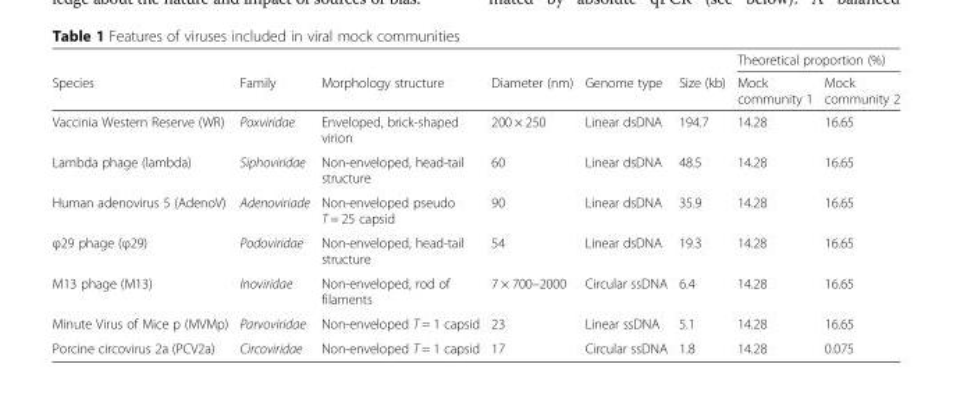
<table><thead><tr><td rowspan="2">Species</td><td rowspan="2">Family</td><td rowspan="2">Morphology structure</td><td rowspan="2">Diameter (nm)</td><td rowspan="2">Genome type</td><td rowspan="2">Size (kb)</td><td colspan="2">Theoretical proportion (%)</td></tr><tr><td>Mock community 1</td><td>Mock community 2</td></tr></thead><tbody><tr><td>Vaccinia Western Reserve (WR)</td><td>Poxviridae</td><td>Enveloped, brick-shaped virion</td><td>200 × 250</td><td>Linear dsDNA</td><td>194.7</td><td>14.28</td><td>16.65</td></tr><tr><td>Lambda phage (lambda)</td><td>Siphoviridae</td><td>Non-enveloped, head-tail structure</td><td>60</td><td>Linear dsDNA</td><td>48.5</td><td>14.28</td><td>16.65</td></tr><tr><td>Human adenovirus 5 (AdenoV)</td><td>Adenoviriade</td><td>Non-enveloped pseudo T = 25 capsid</td><td>90</td><td>Linear dsDNA</td><td>35.9</td><td>14.28</td><td>16.65</td></tr><tr><td>φ29 phage (φ29)</td><td>Podoviridae</td><td>Non-enveloped, head-tail structure</td><td>54</td><td>Linear dsDNA</td><td>19.3</td><td>14.28</td><td>16.65</td></tr><tr><td>M13 phage (M13)</td><td>Inoviridae</td><td>Non-enveloped, rod of filaments</td><td>7 × 700–2000</td><td>Circular ssDNA</td><td>6.4</td><td>14.28</td><td>16.65</td></tr><tr><td>Minute Virus of Mice p (MVMp)</td><td>Parvoviridae</td><td>Non-enveloped T = 1 capsid</td><td>23</td><td>Linear ssDNA</td><td>5.1</td><td>14.28</td><td>16.65</td></tr><tr><td>Porcine circovirus 2a (PCV2a)</td><td>Circoviridae</td><td>Non-enveloped T = 1 capsid</td><td>17</td><td>Circular ssDNA</td><td>1.8</td><td>14.28</td><td>0.075</td></tr></tbody></table>